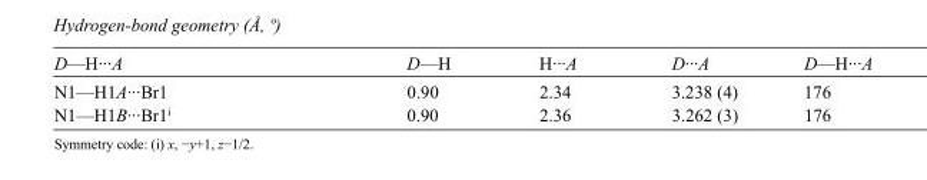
<table><tbody><tr><td>D—H···A</td><td>D—H</td><td>H···A</td><td>D···A</td><td>D—H···A</td></tr><tr><td>N1—H1A···Br1</td><td>0.90</td><td>2.34</td><td>3.238 (4)</td><td>176</td></tr><tr><td>N1—H1B···Br1<sup>i</sup></td><td>0.90</td><td>2.36</td><td>3.262 (3)</td><td>176</td></tr></tbody></table>